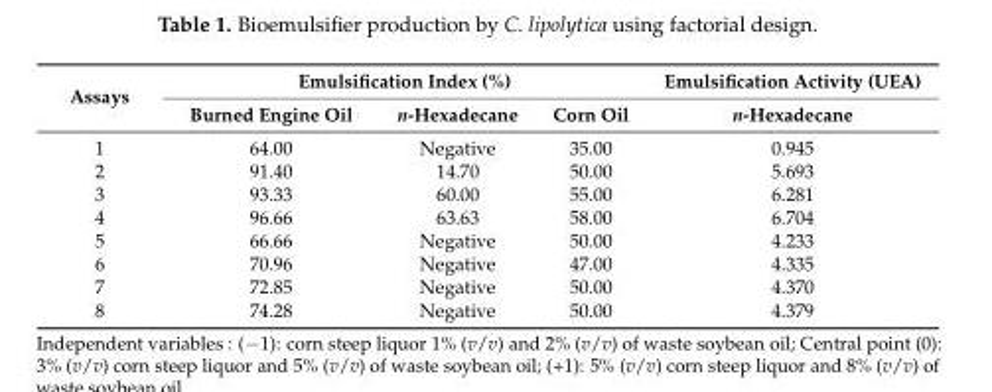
<table><thead><tr><td rowspan="2">Assays</td><td colspan="3">Emulsification Index (%)</td><td rowspan="2">Emulsification Activity (UEA) n-Hexadecane</td></tr><tr><td>Burned Engine Oil</td><td>n-Hexadecane</td><td>Corn Oil</td></tr></thead><tbody><tr><td>1</td><td>64.00</td><td>Negative</td><td>35.00</td><td>0.945</td></tr><tr><td>2</td><td>91.40</td><td>14.70</td><td>50.00</td><td>5.693</td></tr><tr><td>3</td><td>93.33</td><td>60.00</td><td>55.00</td><td>6.281</td></tr><tr><td>4</td><td>96.66</td><td>63.63</td><td>58.00</td><td>6.704</td></tr><tr><td>5</td><td>66.66</td><td>Negative</td><td>50.00</td><td>4.233</td></tr><tr><td>6</td><td>70.96</td><td>Negative</td><td>47.00</td><td>4.335</td></tr><tr><td>7</td><td>72.85</td><td>Negative</td><td>50.00</td><td>4.370</td></tr><tr><td>8</td><td>74.28</td><td>Negative</td><td>50.00</td><td>4.379</td></tr></tbody></table>